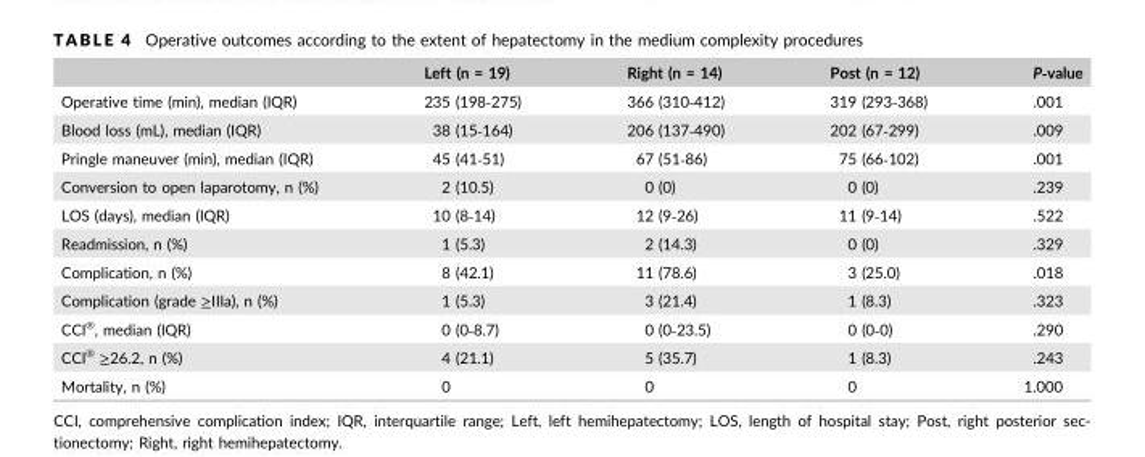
<table><thead><tr><td></td><td>Left (n = 19)</td><td>Right (n = 14)</td><td>Post (n = 12)</td><td>P‐value</td></tr></thead><tbody><tr><td>Operative time (min), median (IQR)</td><td>235 (198‐275)</td><td>366 (310‐412)</td><td>319 (293‐368)</td><td>.001</td></tr><tr><td>Blood loss (mL), median (IQR)</td><td>38 (15‐164)</td><td>206 (137‐490)</td><td>202 (67‐299)</td><td>.009</td></tr><tr><td>Pringle maneuver (min), median (IQR)</td><td>45 (41‐51)</td><td>67 (51‐86)</td><td>75 (66‐102)</td><td>.001</td></tr><tr><td>Conversion to open laparotomy, n (%)</td><td>2 (10.5)</td><td>0 (0)</td><td>0 (0)</td><td>.239</td></tr><tr><td>LOS (days), median (IQR)</td><td>10 (8‐14)</td><td>12 (9‐26)</td><td>11 (9‐14)</td><td>.522</td></tr><tr><td>Readmission, n (%)</td><td>1 (5.3)</td><td>2 (14.3)</td><td>0 (0)</td><td>.329</td></tr><tr><td>Complication, n (%)</td><td>8 (42.1)</td><td>11 (78.6)</td><td>3 (25.0)</td><td>.018</td></tr><tr><td>Complication (grade ≥IIIa), n (%)</td><td>1 (5.3)</td><td>3 (21.4)</td><td>1 (8.3)</td><td>.323</td></tr><tr><td>CCI<sup>®</sup>, median (IQR)</td><td>0 (0‐8.7)</td><td>0 (0‐23.5)</td><td>0 (0‐0)</td><td>.290</td></tr><tr><td>CCI<sup>®</sup> ≥26.2, n (%)</td><td>4 (21.1)</td><td>5 (35.7)</td><td>1 (8.3)</td><td>.243</td></tr><tr><td>Mortality, n (%)</td><td>0</td><td>0</td><td>0</td><td>1.000</td></tr></tbody></table>